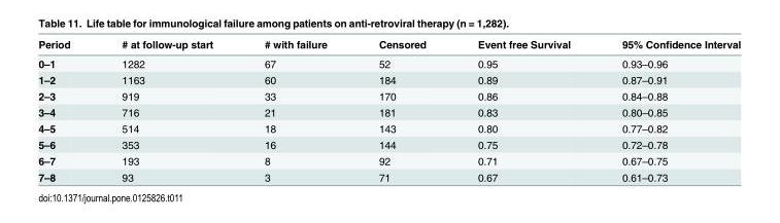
<table><thead><tr><td>Period</td><td># at follow-up start</td><td># with failure</td><td>Censored</td><td>Event free Survival</td><td>95% Confidence Interval</td></tr></thead><tbody><tr><td>0–1</td><td>1282</td><td>67</td><td>52</td><td>0.95</td><td>0.93–0.96</td></tr><tr><td>1–2</td><td>1163</td><td>60</td><td>184</td><td>0.89</td><td>0.87–0.91</td></tr><tr><td>2–3</td><td>919</td><td>33</td><td>170</td><td>0.86</td><td>0.84–0.88</td></tr><tr><td>3–4</td><td>716</td><td>21</td><td>181</td><td>0.83</td><td>0.80–0.85</td></tr><tr><td>4–5</td><td>514</td><td>18</td><td>143</td><td>0.80</td><td>0.77–0.82</td></tr><tr><td>5–6</td><td>353</td><td>16</td><td>144</td><td>0.75</td><td>0.72–0.78</td></tr><tr><td>6–7</td><td>193</td><td>8</td><td>92</td><td>0.71</td><td>0.67–0.75</td></tr><tr><td>7–8</td><td>93</td><td>3</td><td>71</td><td>0.67</td><td>0.61–0.73</td></tr></tbody></table>